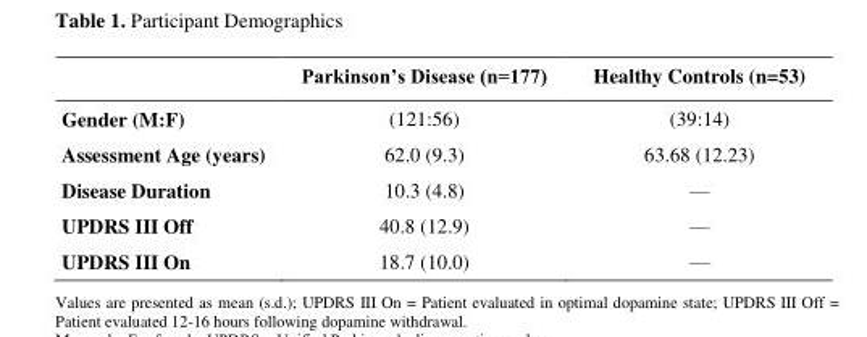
<table><thead><tr><td></td><td>Parkinson’s Disease (n=177)</td><td>Healthy Controls (n=53)</td></tr></thead><tbody><tr><td>Gender (M:F)</td><td>(121:56)</td><td>(39:14)</td></tr><tr><td>Assessment Age (years)</td><td>62.0 (9.3)</td><td>63.68 (12.23)</td></tr><tr><td>Disease Duration</td><td>10.3 (4.8)</td><td>—</td></tr><tr><td>UPDRS III Off</td><td>40.8 (12.9)</td><td>—</td></tr><tr><td>UPDRS III On</td><td>18.7 (10.0)</td><td>—</td></tr></tbody></table>